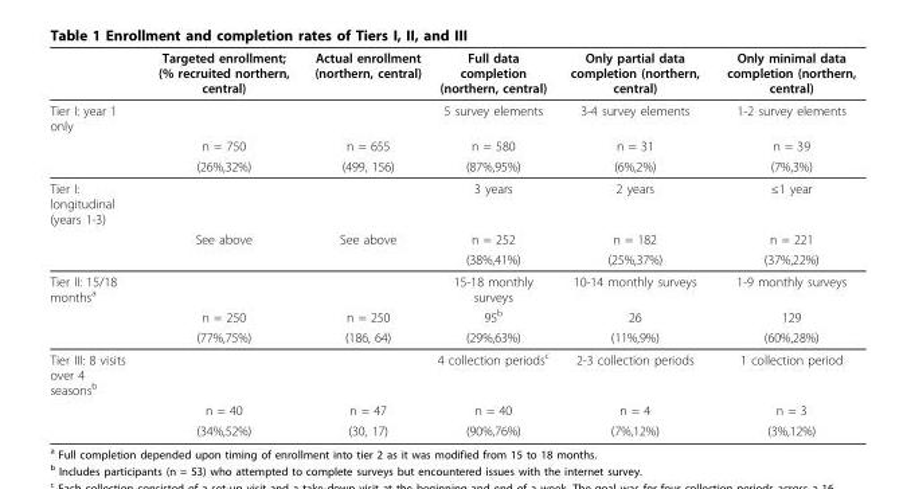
<table><thead><tr><td></td><td>Targeted enrollment; (% recruited northern, central)</td><td>Actual enrollment (northern, central)</td><td>Full data completion (northern, central)</td><td>Only partial data completion (northern, central)</td><td>Only minimal data completion (northern, central)</td></tr></thead><tbody><tr><td rowspan="3">Tier I: year 1 only</td><td></td><td></td><td>5 survey elements</td><td>3-4 survey elements</td><td>1-2 survey elements</td></tr><tr><td>n = 750</td><td>n = 655</td><td>n = 580</td><td>n = 31</td><td>n = 39</td></tr><tr><td>(26%,32%)</td><td>(499, 156)</td><td>(87%,95%)</td><td>(6%,2%)</td><td>(7%,3%)</td></tr><tr><td rowspan="3">Tier I: longitudinal (years 1-3)</td><td></td><td></td><td>3 years</td><td>2 years</td><td>≤1 year</td></tr><tr><td>See above</td><td>See above</td><td>n = 252</td><td>n = 182</td><td>n = 221</td></tr><tr><td></td><td></td><td>(38%,41%)</td><td>(25%,37%)</td><td>(37%,22%)</td></tr><tr><td rowspan="3">Tier II: 15/18 months<sup>a</sup></td><td></td><td></td><td>15-18 monthly surveys</td><td>10-14 monthly surveys</td><td>1-9 monthly surveys</td></tr><tr><td>n = 250</td><td>n = 250</td><td>95<sup>b</sup></td><td>26</td><td>129</td></tr><tr><td>(77%,75%)</td><td>(186, 64)</td><td>(29%,63%)</td><td>(11%,9%)</td><td>(60%,28%)</td></tr><tr><td rowspan="3">Tier III: 8 visits over 4 seasons<sup>b</sup></td><td></td><td></td><td>4 collection periods<sup>c</sup></td><td>2-3 collection periods</td><td>1 collection period</td></tr><tr><td>n = 40</td><td>n = 47</td><td>n = 40</td><td>n = 4</td><td>n = 3</td></tr><tr><td>(34%,52%)</td><td>(30, 17)</td><td>(90%,76%)</td><td>(7%,12%)</td><td>(3%,12%)</td></tr></tbody></table>